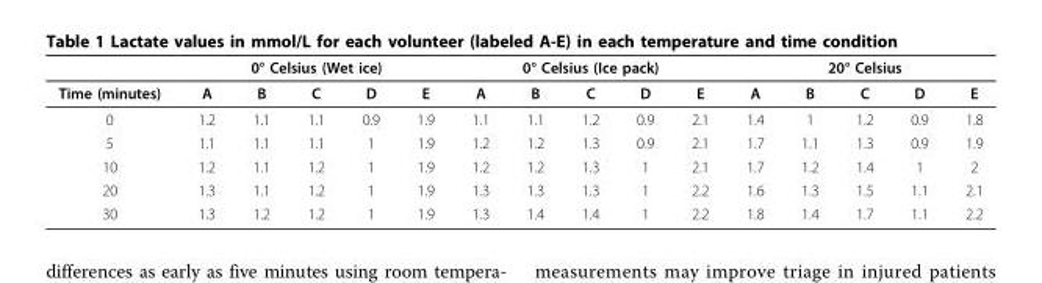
<table><thead><tr><td rowspan="2">Time (minutes)</td><td colspan="5">0° Celsius (Wet ice)</td><td colspan="5">0° Celsius (Ice pack)</td><td colspan="5">20° Celsius</td></tr><tr><td>A</td><td>B</td><td>C</td><td>D</td><td>E</td><td>A</td><td>B</td><td>C</td><td>D</td><td>E</td><td>A</td><td>B</td><td>C</td><td>D</td><td>E</td></tr></thead><tbody><tr><td>0</td><td>1.2</td><td>1.1</td><td>1.1</td><td>0.9</td><td>1.9</td><td>1.1</td><td>1.1</td><td>1.2</td><td>0.9</td><td>2.1</td><td>1.4</td><td>1</td><td>1.2</td><td>0.9</td><td>1.8</td></tr><tr><td>5</td><td>1.1</td><td>1.1</td><td>1.1</td><td>1</td><td>1.9</td><td>1.2</td><td>1.2</td><td>1.3</td><td>0.9</td><td>2.1</td><td>1.7</td><td>1.1</td><td>1.3</td><td>0.9</td><td>1.9</td></tr><tr><td>10</td><td>1.2</td><td>1.1</td><td>1.2</td><td>1</td><td>1.9</td><td>1.2</td><td>1.2</td><td>1.3</td><td>1</td><td>2.1</td><td>1.7</td><td>1.2</td><td>1.4</td><td>1</td><td>2</td></tr><tr><td>20</td><td>1.3</td><td>1.1</td><td>1.2</td><td>1</td><td>1.9</td><td>1.3</td><td>1.3</td><td>1.3</td><td>1</td><td>2.2</td><td>1.6</td><td>1.3</td><td>1.5</td><td>1.1</td><td>2.1</td></tr><tr><td>30</td><td>1.3</td><td>1.2</td><td>1.2</td><td>1</td><td>1.9</td><td>1.3</td><td>1.4</td><td>1.4</td><td>1</td><td>2.2</td><td>1.8</td><td>1.4</td><td>1.7</td><td>1.1</td><td>2.2</td></tr></tbody></table>